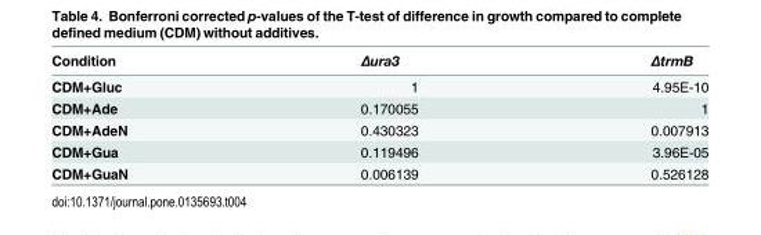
<table><thead><tr><td>Condition</td><td>Δura3</td><td>ΔtrmB</td></tr></thead><tbody><tr><td>CDM+Gluc</td><td>1</td><td>4.95E-10</td></tr><tr><td>CDM+Ade</td><td>0.170055</td><td>1</td></tr><tr><td>CDM+AdeN</td><td>0.430323</td><td>0.007913</td></tr><tr><td>CDM+Gua</td><td>0.119496</td><td>3.96E-05</td></tr><tr><td>CDM+GuaN</td><td>0.006139</td><td>0.526128</td></tr></tbody></table>